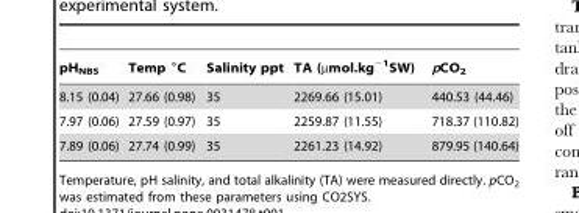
<table><thead><tr><td>pH<sub>NBS</sub></td><td>Temp °C</td><td>Salinity ppt</td><td>TA (µmol.kg<sup>−1</sup>SW)</td><td>pCO<sub>2</sub></td></tr></thead><tbody><tr><td>8.15 (0.04)</td><td>27.66 (0.98)</td><td>35</td><td>2269.66 (15.01)</td><td>440.53 (44.46)</td></tr><tr><td>7.97 (0.06)</td><td>27.59 (0.97)</td><td>35</td><td>2259.87 (11.55)</td><td>718.37 (110.82)</td></tr><tr><td>7.89 (0.06)</td><td>27.74 (0.99)</td><td>35</td><td>2261.23 (14.92)</td><td>879.95 (140.64)</td></tr></tbody></table>